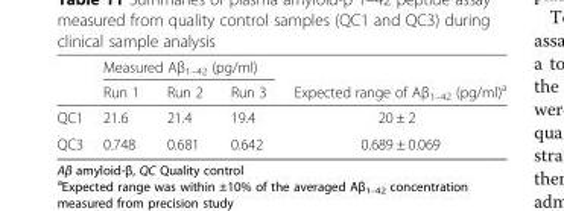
<table><thead><tr><td rowspan="2"></td><td colspan="3">Measured Aβ<sub>1–42</sub> (pg/ml)</td><td rowspan="2">Expected range of Aβ<sub>1–42</sub> (pg/ml)<sup>a</sup></td></tr><tr><td>Run 1</td><td>Run 2</td><td>Run 3</td></tr></thead><tbody><tr><td>QC1</td><td>21.6</td><td>21.4</td><td>19.4</td><td>20 ± 2</td></tr><tr><td>QC3</td><td>0.748</td><td>0.681</td><td>0.642</td><td>0.689 ± 0.069</td></tr></tbody></table>